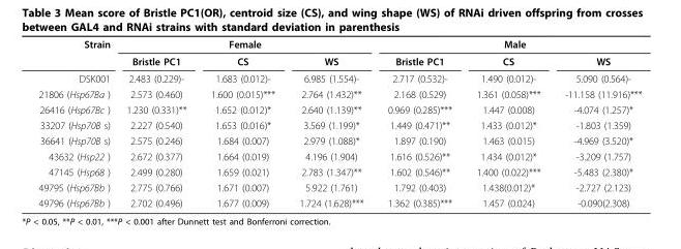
<table><tbody><tr><td rowspan="2">Strain</td><td colspan="3">Female</td><td colspan="3">Male</td></tr><tr><td>Bristle PC1</td><td>CS</td><td>WS</td><td>Bristle PC1</td><td>CS</td><td>WS</td></tr><tr><td>DSK001</td><td>2.483 (0.229)-</td><td>1.683 (0.012)-</td><td>6.985 (1.554)-</td><td>2.717 (0.532)-</td><td>1.490 (0.012)-</td><td>5.090 (0.564)-</td></tr><tr><td>21806 (Hsp67Ba )</td><td>2.573 (0.460)</td><td>1.600 (0.015)***</td><td>2.764 (1.432)**</td><td>2.168 (0.529)</td><td>1.361 (0.058)***</td><td>-11.158 (11.916)***</td></tr><tr><td>26416 (Hsp67Bc )</td><td>1.230 (0.331)**</td><td>1.652 (0.012)*</td><td>2.640 (1.139)**</td><td>0.969 (0.285)***</td><td>1.447 (0.008)</td><td>-4.074 (1.257)*</td></tr><tr><td>33207 (Hsp70B s)</td><td>2.227 (0.540)</td><td>1.653 (0.016)*</td><td>3.569 (1.199)*</td><td>1.449 (0.471)**</td><td>1.433 (0.012)*</td><td>-1.803 (1.359)</td></tr><tr><td>36641 (Hsp70B s)</td><td>2.575 (0.246)</td><td>1.684 (0.007)</td><td>2.979 (1.088)*</td><td>1.897 (0.190)</td><td>1.463 (0.015)</td><td>-4.969 (3.520)*</td></tr><tr><td>43632 (Hsp22 )</td><td>2.672 (0.377)</td><td>1.664 (0.019)</td><td>4.196 (1.904)</td><td>1.616 (0.526)**</td><td>1.434 (0.012)*</td><td>-3.209 (1.757)</td></tr><tr><td>47145 (Hsp68 )</td><td>2.499 (0.280)</td><td>1.659 (0.021)</td><td>2.783 (1.347)**</td><td>1.602 (0.546)**</td><td>1.400 (0.022)***</td><td>-5.483 (2.380)*</td></tr><tr><td>49795 (Hsp67Bb )</td><td>2.775 (0.766)</td><td>1.671 (0.007)</td><td>5.922 (1.761)</td><td>1.792 (0.403)</td><td>1.438(0.012)*</td><td>-2.727 (2.123)</td></tr><tr><td>49796 (Hsp67Bb )</td><td>2.702 (0.496)</td><td>1.677 (0.009)</td><td>1.724 (1.628)***</td><td>1.362 (0.385)***</td><td>1.457 (0.024)</td><td>-0.090(2.308)</td></tr></tbody></table>